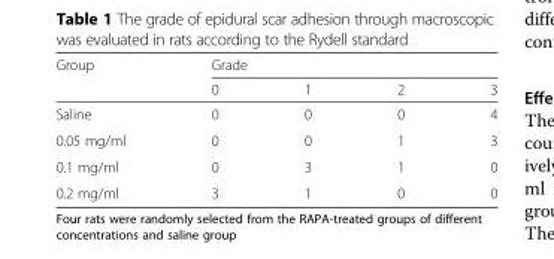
<table><thead><tr><td rowspan="2">Group</td><td colspan="4">Grade</td></tr><tr><td>0</td><td>1</td><td>2</td><td>3</td></tr></thead><tbody><tr><td>Saline</td><td>0</td><td>0</td><td>0</td><td>4</td></tr><tr><td>0.05 mg/ml</td><td>0</td><td>0</td><td>1</td><td>3</td></tr><tr><td>0.1 mg/ml</td><td>0</td><td>3</td><td>1</td><td>0</td></tr><tr><td>0.2 mg/ml</td><td>3</td><td>1</td><td>0</td><td>0</td></tr></tbody></table>